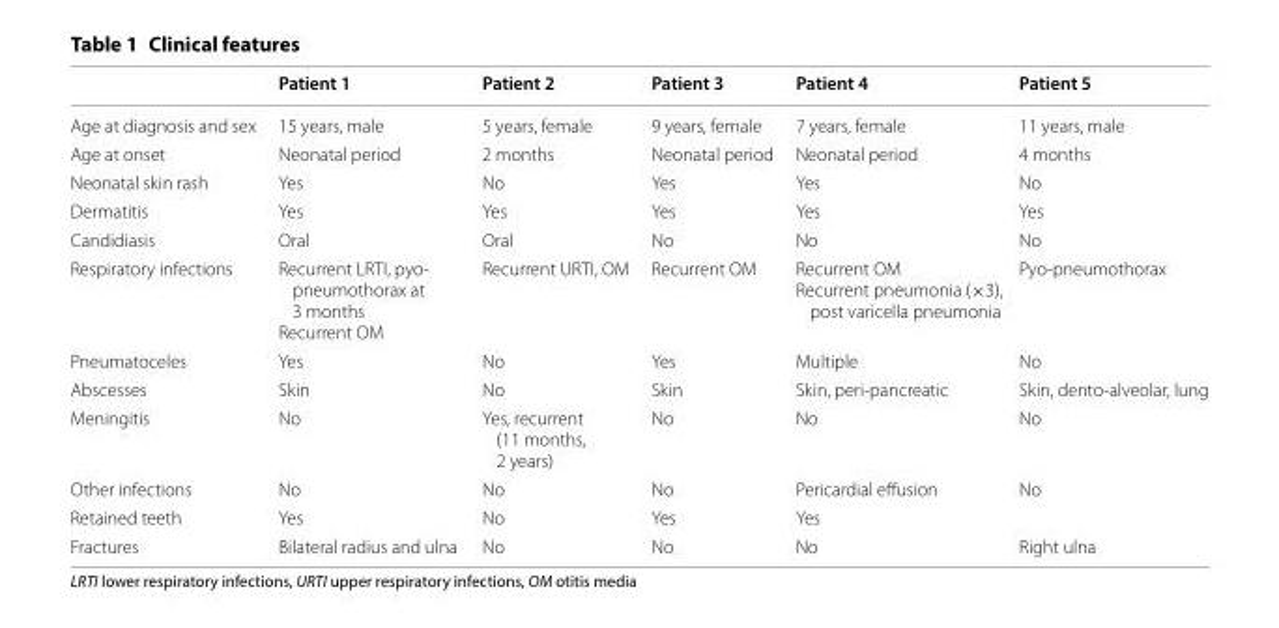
<table><thead><tr><td></td><td>Patient 1</td><td>Patient 2</td><td>Patient 3</td><td>Patient 4</td><td>Patient 5</td></tr></thead><tbody><tr><td>Age at diagnosis and sex</td><td>15 years, male</td><td>5 years, female</td><td>9 years, female</td><td>7 years, female</td><td>11 years, male</td></tr><tr><td>Age at onset</td><td>Neonatal period</td><td>2 months</td><td>Neonatal period</td><td>Neonatal period</td><td>4 months</td></tr><tr><td>Neonatal skin rash</td><td>Yes</td><td>No</td><td>Yes</td><td>Yes</td><td>No</td></tr><tr><td>Dermatitis</td><td>Yes</td><td>Yes</td><td>Yes</td><td>Yes</td><td>Yes</td></tr><tr><td>Candidiasis</td><td>Oral</td><td>Oral</td><td>No</td><td>No</td><td>No</td></tr><tr><td>Respiratory infections</td><td>Recurrent LRTI, pyo- pneumothorax at 3 months Recurrent OM</td><td>Recurrent URTI, OM</td><td>Recurrent OM</td><td>Recurrent OM Recurrent pneumonia (×3), post varicella pneumonia</td><td>Pyo-pneumothorax</td></tr><tr><td>Pneumatoceles</td><td>Yes</td><td>No</td><td>Yes</td><td>Multiple</td><td>No</td></tr><tr><td>Abscesses</td><td>Skin</td><td>No</td><td>Skin</td><td>Skin, peri-pancreatic</td><td>Skin, dento-alveolar, lung</td></tr><tr><td>Meningitis</td><td>No</td><td>Yes, recurrent (11 months, 2 years)</td><td>No</td><td>No</td><td>No</td></tr><tr><td>Other infections</td><td>No</td><td>No</td><td>No</td><td>Pericardial effusion</td><td>No</td></tr><tr><td>Retained teeth</td><td>Yes</td><td>No</td><td>Yes</td><td>Yes</td><td></td></tr><tr><td>Fractures</td><td>Bilateral radius and ulna</td><td>No</td><td>No</td><td>No</td><td>Right ulna</td></tr></tbody></table>